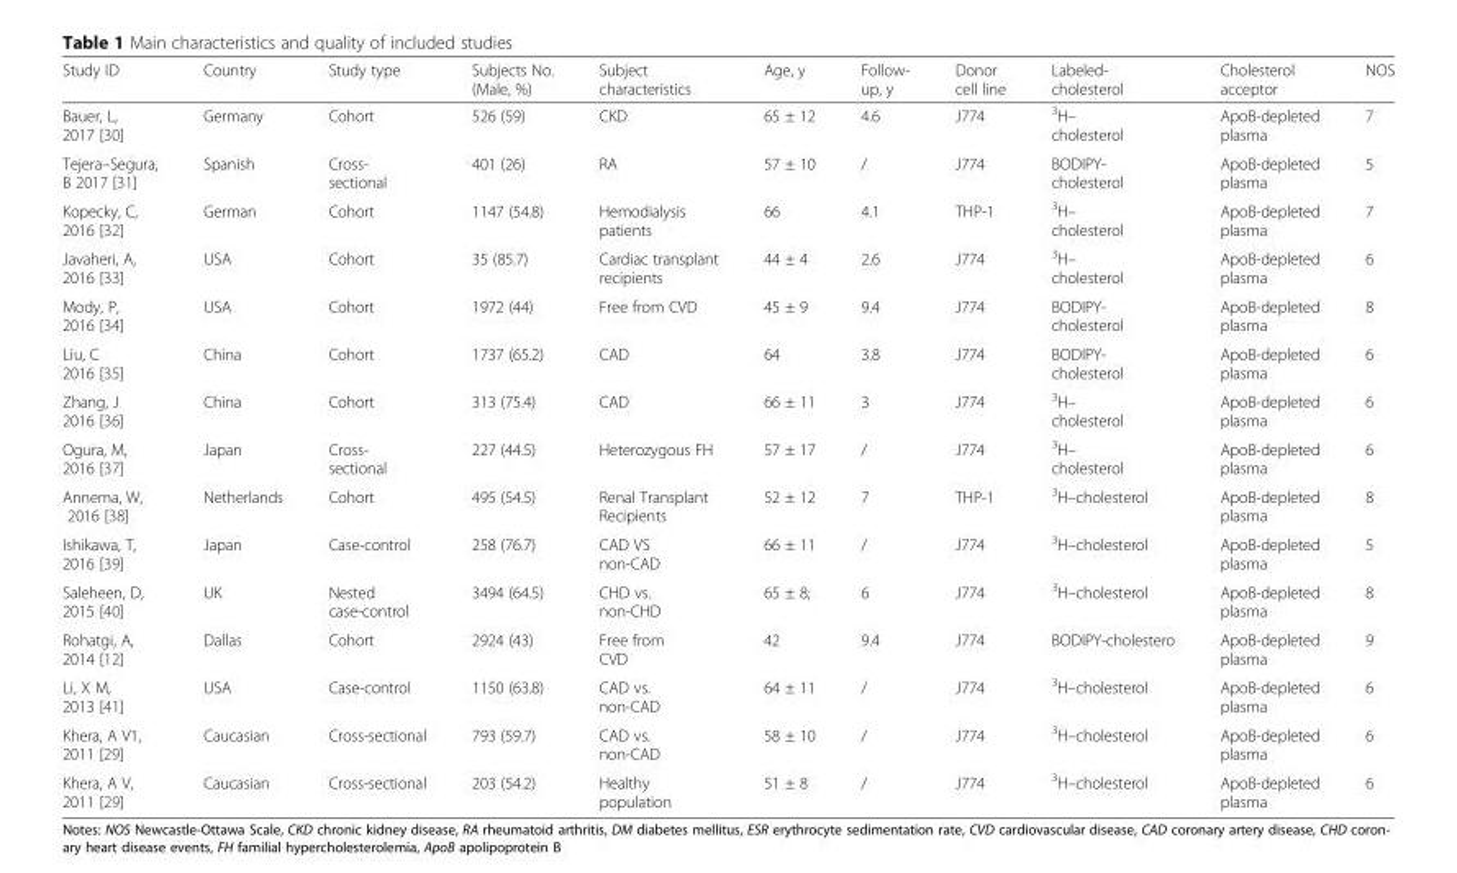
<table><thead><tr><td>Study ID</td><td>Country</td><td>Study type</td><td>Subjects No. (Male, %)</td><td>Subject characteristics</td><td>Age, y</td><td>Follow- up, y</td><td>Donor cell line</td><td>Labeled- cholesterol</td><td>Cholesterol acceptor</td><td>NOS</td></tr></thead><tbody><tr><td>Bauer, L, 2017 [30]</td><td>Germany</td><td>Cohort</td><td>526 (59)</td><td>CKD</td><td>65 ± 12</td><td>4.6</td><td>J774</td><td><sup>3</sup>H– cholesterol</td><td>ApoB-depleted plasma</td><td>7</td></tr><tr><td>Tejera–Segura, B 2017 [31]</td><td>Spanish</td><td>Cross- sectional</td><td>401 (26)</td><td>RA</td><td>57 ± 10</td><td>/</td><td>J774</td><td>BODIPY- cholesterol</td><td>ApoB-depleted plasma</td><td>5</td></tr><tr><td>Kopecky, C, 2016 [32]</td><td>German</td><td>Cohort</td><td>1147 (54.8)</td><td>Hemodialysis patients</td><td>66</td><td>4.1</td><td>THP-1</td><td><sup>3</sup>H– cholesterol</td><td>ApoB-depleted plasma</td><td>7</td></tr><tr><td>Javaheri, A, 2016 [33]</td><td>USA</td><td>Cohort</td><td>35 (85.7)</td><td>Cardiac transplant recipients</td><td>44 ± 4</td><td>2.6</td><td>J774</td><td><sup>3</sup>H– cholesterol</td><td>ApoB-depleted plasma</td><td>6</td></tr><tr><td>Mody, P, 2016 [34]</td><td>USA</td><td>Cohort</td><td>1972 (44)</td><td>Free from CVD</td><td>45 ± 9</td><td>9.4</td><td>J774</td><td>BODIPY- cholesterol</td><td>ApoB-depleted plasma</td><td>8</td></tr><tr><td>Liu, C 2016 [35]</td><td>China</td><td>Cohort</td><td>1737 (65.2)</td><td>CAD</td><td>64</td><td>3.8</td><td>J774</td><td>BODIPY- cholesterol</td><td>ApoB-depleted plasma</td><td>6</td></tr><tr><td>Zhang, J 2016 [36]</td><td>China</td><td>Cohort</td><td>313 (75.4)</td><td>CAD</td><td>66 ± 11</td><td>3</td><td>J774</td><td><sup>3</sup>H– cholesterol</td><td>ApoB-depleted plasma</td><td>6</td></tr><tr><td>Ogura, M, 2016 [37]</td><td>Japan</td><td>Cross- sectional</td><td>227 (44.5)</td><td>Heterozygous FH</td><td>57 ± 17</td><td>/</td><td>J774</td><td><sup>3</sup>H– cholesterol</td><td>ApoB-depleted plasma</td><td>6</td></tr><tr><td>Annema, W, 2016 [38]</td><td>Netherlands</td><td>Cohort</td><td>495 (54.5)</td><td>Renal Transplant Recipients</td><td>52 ± 12</td><td>7</td><td>THP-1</td><td><sup>3</sup>H–cholesterol</td><td>ApoB-depleted plasma</td><td>8</td></tr><tr><td>Ishikawa, T, 2016 [39]</td><td>Japan</td><td>Case-control</td><td>258 (76.7)</td><td>CAD VS non-CAD</td><td>66 ± 11</td><td>/</td><td>J774</td><td><sup>3</sup>H–cholesterol</td><td>ApoB-depleted plasma</td><td>5</td></tr><tr><td>Saleheen, D, 2015 [40]</td><td>UK</td><td>Nested case-control</td><td>3494 (64.5)</td><td>CHD vs. non-CHD</td><td>65 ± 8;</td><td>6</td><td>J774</td><td><sup>3</sup>H–cholesterol</td><td>ApoB-depleted plasma</td><td>8</td></tr><tr><td>Rohatgi, A, 2014 [12]</td><td>Dallas</td><td>Cohort</td><td>2924 (43)</td><td>Free from CVD</td><td>42</td><td>9.4</td><td>J774</td><td>BODIPY-cholestero</td><td>ApoB-depleted plasma</td><td>9</td></tr><tr><td>Li, X M, 2013 [41]</td><td>USA</td><td>Case-control</td><td>1150 (63.8)</td><td>CAD vs. non-CAD</td><td>64 ± 11</td><td>/</td><td>J774</td><td><sup>3</sup>H–cholesterol</td><td>ApoB-depleted plasma</td><td>6</td></tr><tr><td>Khera, A V1, 2011 [29]</td><td>Caucasian</td><td>Cross-sectional</td><td>793 (59.7)</td><td>CAD vs. non-CAD</td><td>58 ± 10</td><td>/</td><td>J774</td><td><sup>3</sup>H–cholesterol</td><td>ApoB-depleted plasma</td><td>6</td></tr><tr><td>Khera, A V, 2011 [29]</td><td>Caucasian</td><td>Cross-sectional</td><td>203 (54.2)</td><td>Healthy population</td><td>51 ± 8</td><td>/</td><td>J774</td><td><sup>3</sup>H–cholesterol</td><td>ApoB-depleted plasma</td><td>6</td></tr></tbody></table>